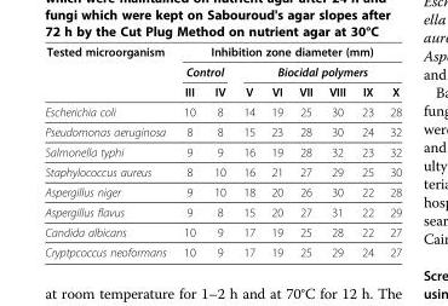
<table><thead><tr><td rowspan="3">Tested microorganism</td><td colspan="8">Inhibition zone diameter (mm)</td></tr><tr><td colspan="2">Control</td><td colspan="6">Biocidal polymers</td></tr><tr><td>III</td><td>IV</td><td>V</td><td>VI</td><td>VII</td><td>VIII</td><td>IX</td><td>X</td></tr></thead><tbody><tr><td>Escherichia coli</td><td>10</td><td>8</td><td>14</td><td>19</td><td>25</td><td>30</td><td>23</td><td>28</td></tr><tr><td>Pseudomonas aeruginosa</td><td>8</td><td>8</td><td>15</td><td>23</td><td>28</td><td>30</td><td>24</td><td>32</td></tr><tr><td>Salmonella typhi</td><td>9</td><td>9</td><td>16</td><td>19</td><td>28</td><td>32</td><td>23</td><td>32</td></tr><tr><td>Staphylococcus aureus</td><td>8</td><td>10</td><td>16</td><td>21</td><td>27</td><td>29</td><td>25</td><td>30</td></tr><tr><td>Aspergillus niger</td><td>9</td><td>10</td><td>18</td><td>20</td><td>26</td><td>30</td><td>22</td><td>28</td></tr><tr><td>Aspergillus flavus</td><td>9</td><td>8</td><td>15</td><td>20</td><td>27</td><td>31</td><td>22</td><td>29</td></tr><tr><td>Candida albicans</td><td>10</td><td>9</td><td>17</td><td>19</td><td>25</td><td>28</td><td>22</td><td>27</td></tr><tr><td>Cryptpcoccus neoformans</td><td>10</td><td>9</td><td>17</td><td>19</td><td>25</td><td>29</td><td>24</td><td>27</td></tr></tbody></table>